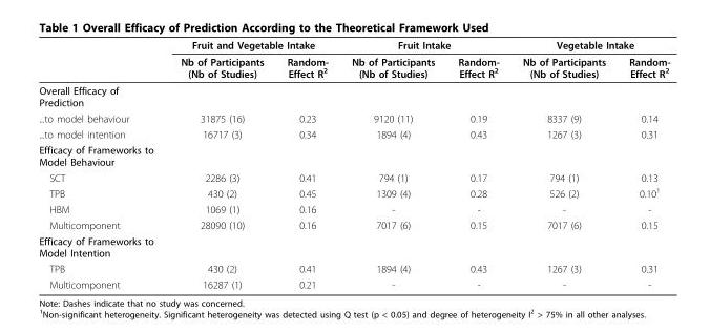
<table><thead><tr><td rowspan="2"></td><td colspan="2">Fruit and Vegetable Intake</td><td colspan="2">Fruit Intake</td><td colspan="2">Vegetable Intake</td></tr><tr><td>Nb of Participants (Nb of Studies)</td><td>Random- Effect R<sup>2</sup></td><td>Nb of Participants (Nb of Studies)</td><td>Random- Effect R<sup>2</sup></td><td>Nb of Participants (Nb of Studies)</td><td>Random- Effect R<sup>2</sup></td></tr></thead><tbody><tr><td colspan="7">Overall Efficacy of Prediction</td></tr><tr><td>...to model behaviour</td><td>31875 (16)</td><td>0.23</td><td>9120 (11)</td><td>0.19</td><td>8337 (9)</td><td>0.14</td></tr><tr><td>...to model intention</td><td>16717 (3)</td><td>0.34</td><td>1894 (4)</td><td>0.43</td><td>1267 (3)</td><td>0.31</td></tr><tr><td colspan="7">Efficacy of Frameworks to Model Behaviour</td></tr><tr><td>SCT</td><td>2286 (3)</td><td>0.41</td><td>794 (1)</td><td>0.17</td><td>794 (1)</td><td>0.13</td></tr><tr><td>TPB</td><td>430 (2)</td><td>0.45</td><td>1309 (4)</td><td>0.28</td><td>526 (2)</td><td>0.10<sup>1</sup></td></tr><tr><td>HBM</td><td>1069 (1)</td><td>0.16</td><td>-</td><td>-</td><td>-</td><td>-</td></tr><tr><td>Multicomponent</td><td>28090 (10)</td><td>0.16</td><td>7017 (6)</td><td>0.15</td><td>7017 (6)</td><td>0.15</td></tr><tr><td colspan="7">Efficacy of Frameworks to Model Intention</td></tr><tr><td>TPB</td><td>430 (2)</td><td>0.41</td><td>1894 (4)</td><td>0.43</td><td>1267 (3)</td><td>0.31</td></tr><tr><td>Multicomponent</td><td>16287 (1)</td><td>0.21</td><td>-</td><td>-</td><td>-</td><td>-</td></tr></tbody></table>